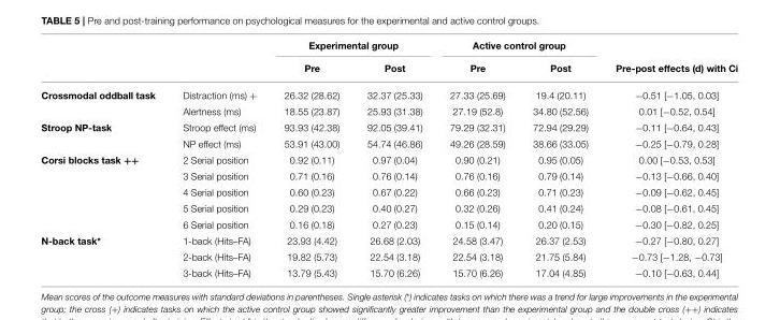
<table><thead><tr><td rowspan="2"></td><td rowspan="2"></td><td colspan="2">Experimental group</td><td colspan="2">Active control group</td><td rowspan="2">Pre-post effects (d) with Ci</td></tr><tr><td>Pre</td><td>Post</td><td>Pre</td><td>Post</td></tr></thead><tbody><tr><td rowspan="2">Crossmodal oddball task</td><td>Distraction (ms) +</td><td>26.32 (28.62)</td><td>32.37 (25.33)</td><td>27.33 (25.69)</td><td>19.4 (20.11)</td><td>−0.51 [−1.05, 0.03]</td></tr><tr><td>Alertness (ms)</td><td>18.55 (23.87)</td><td>25.93 (31.38)</td><td>27.19 (52.8)</td><td>34.80 (52.56)</td><td>0.01 [−0.52, 0.54]</td></tr><tr><td rowspan="2">Stroop NP-task</td><td>Stroop effect (ms)</td><td>93.93 (42.38)</td><td>92.05 (39.41)</td><td>79.29 (32.31)</td><td>72.94 (29.29)</td><td>−0.11 [−0.64, 0.43]</td></tr><tr><td>NP effect (ms)</td><td>53.91 (43.00)</td><td>54.74 (46.86)</td><td>49.26 (28.59)</td><td>38.66 (33.05)</td><td>−0.25 [−0.79, 0.28]</td></tr><tr><td rowspan="5">Corsi blocks task ++</td><td>2 Serial position</td><td>0.92 (0.11)</td><td>0.97 (0.04)</td><td>0.90 (0.21)</td><td>0.95 (0.05)</td><td>0.00 [−0.53, 0.53]</td></tr><tr><td>3 Serial position</td><td>0.71 (0.16)</td><td>0.76 (0.14)</td><td>0.76 (0.16)</td><td>0.79 (0.14)</td><td>−0.13 [−0.66, 0.40]</td></tr><tr><td>4 Serial position</td><td>0.60 (0.23)</td><td>0.67 (0.22)</td><td>0.66 (0.23)</td><td>0.71 (0.23)</td><td>−0.09 [−0.62, 0.45]</td></tr><tr><td>5 Serial position</td><td>0.29 (0.23)</td><td>0.40 (0.27)</td><td>0.32 (0.26)</td><td>0.41 (0.24)</td><td>−0.08 [−0.61, 0.45]</td></tr><tr><td>6 Serial position</td><td>0.16 (0.18)</td><td>0.27 (0.23)</td><td>0.15 (0.14)</td><td>0.20 (0.15)</td><td>−0.30 [−0.82, 0.25]</td></tr><tr><td rowspan="3">N-back task*</td><td>1-back (Hits–FA)</td><td>23.93 (4.42)</td><td>26.68 (2.03)</td><td>24.58 (3.47)</td><td>26.37 (2.53)</td><td>−0.27 [−0.80, 0.27]</td></tr><tr><td>2-back (Hits–FA)</td><td>19.82 (5.73)</td><td>22.54 (3.18)</td><td>22.54 (3.18)</td><td>21.75 (5.84)</td><td>−0.73 [−1.28, −0.73]</td></tr><tr><td>3-back (Hits–FA)</td><td>13.79 (5.43)</td><td>15.70 (6.26)</td><td>15.70 (6.26)</td><td>17.04 (4.85)</td><td>−0.10 [−0.63, 0.44]</td></tr></tbody></table>